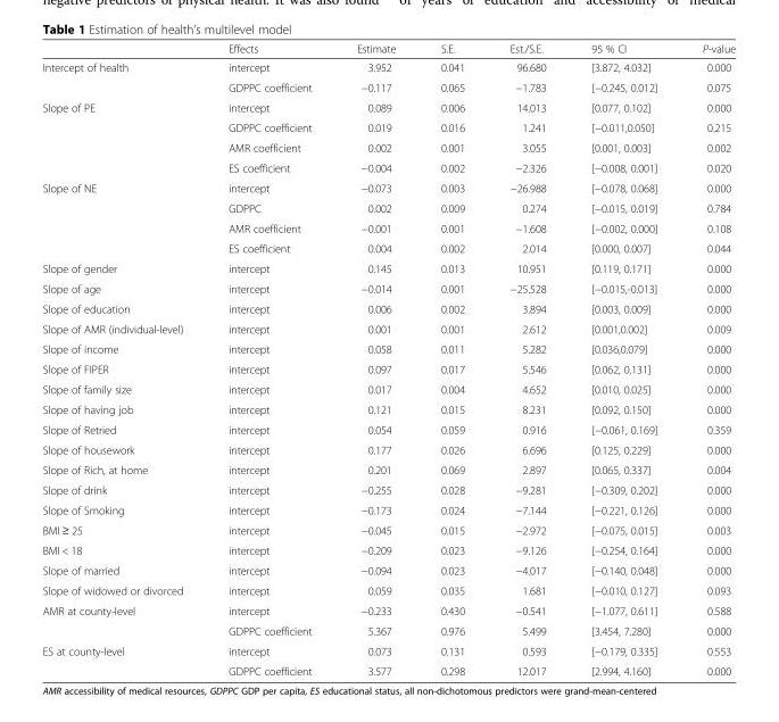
<table><thead><tr><td></td><td>Effects</td><td>Estimate</td><td>S.E.</td><td>Est./S.E.</td><td>95 % CI</td><td>P-value</td></tr></thead><tbody><tr><td rowspan="2">Intercept of health</td><td>intercept</td><td>3.952</td><td>0.041</td><td>96.680</td><td>[3.872, 4.032]</td><td>0.000</td></tr><tr><td>GDPPC coefficient</td><td>−0.117</td><td>0.065</td><td>−1.783</td><td>[−0.245, 0.012]</td><td>0.075</td></tr><tr><td rowspan="4">Slope of PE</td><td>intercept</td><td>0.089</td><td>0.006</td><td>14.013</td><td>[0.077, 0.102]</td><td>0.000</td></tr><tr><td>GDPPC coefficient</td><td>0.019</td><td>0.016</td><td>1.241</td><td>[−0.011,0.050]</td><td>0.215</td></tr><tr><td>AMR coefficient</td><td>0.002</td><td>0.001</td><td>3.055</td><td>[0.001, 0.003]</td><td>0.002</td></tr><tr><td>ES coefficient</td><td>−0.004</td><td>0.002</td><td>−2.326</td><td>[−0.008, 0.001]</td><td>0.020</td></tr><tr><td rowspan="4">Slope of NE</td><td>intercept</td><td>−0.073</td><td>0.003</td><td>−26.988</td><td>[−0.078, 0.068]</td><td>0.000</td></tr><tr><td>GDPPC</td><td>0.002</td><td>0.009</td><td>0.274</td><td>[−0.015, 0.019]</td><td>0.784</td></tr><tr><td>AMR coefficient</td><td>−0.001</td><td>0.001</td><td>−1.608</td><td>[−0.002, 0.000]</td><td>0.108</td></tr><tr><td>ES coefficient</td><td>0.004</td><td>0.002</td><td>2.014</td><td>[0.000, 0.007]</td><td>0.044</td></tr><tr><td>Slope of gender</td><td>intercept</td><td>0.145</td><td>0.013</td><td>10.951</td><td>[0.119, 0.171]</td><td>0.000</td></tr><tr><td>Slope of age</td><td>intercept</td><td>−0.014</td><td>0.001</td><td>−25.528</td><td>[−0.015,-0.013]</td><td>0.000</td></tr><tr><td>Slope of education</td><td>intercept</td><td>0.006</td><td>0.002</td><td>3.894</td><td>[0.003, 0.009]</td><td>0.000</td></tr><tr><td>Slope of AMR (individual-level)</td><td>intercept</td><td>0.001</td><td>0.001</td><td>2.612</td><td>[0.001,0.002]</td><td>0.009</td></tr><tr><td>Slope of income</td><td>intercept</td><td>0.058</td><td>0.011</td><td>5.282</td><td>[0.036,0.079]</td><td>0.000</td></tr><tr><td>Slope of FIPER</td><td>intercept</td><td>0.097</td><td>0.017</td><td>5.546</td><td>[0.062, 0.131]</td><td>0.000</td></tr><tr><td>Slope of family size</td><td>intercept</td><td>0.017</td><td>0.004</td><td>4.652</td><td>[0.010, 0.025]</td><td>0.000</td></tr><tr><td>Slope of having job</td><td>intercept</td><td>0.121</td><td>0.015</td><td>8.231</td><td>[0.092, 0.150]</td><td>0.000</td></tr><tr><td>Slope of Retried</td><td>intercept</td><td>0.054</td><td>0.059</td><td>0.916</td><td>[−0.061, 0.169]</td><td>0.359</td></tr><tr><td>Slope of housework</td><td>intercept</td><td>0.177</td><td>0.026</td><td>6.696</td><td>[0.125, 0.229]</td><td>0.000</td></tr><tr><td>Slope of Rich, at home</td><td>intercept</td><td>0.201</td><td>0.069</td><td>2.897</td><td>[0.065, 0.337]</td><td>0.004</td></tr><tr><td>Slope of drink</td><td>intercept</td><td>−0.255</td><td>0.028</td><td>−9.281</td><td>[−0.309, 0.202]</td><td>0.000</td></tr><tr><td>Slope of Smoking</td><td>intercept</td><td>−0.173</td><td>0.024</td><td>−7.144</td><td>[−0.221, 0.126]</td><td>0.000</td></tr><tr><td>BMI ≥ 25</td><td>intercept</td><td>−0.045</td><td>0.015</td><td>−2.972</td><td>[−0.075, 0.015]</td><td>0.003</td></tr><tr><td>BMI &lt; 18</td><td>intercept</td><td>−0.209</td><td>0.023</td><td>−9.126</td><td>[−0.254, 0.164]</td><td>0.000</td></tr><tr><td>Slope of married</td><td>intercept</td><td>−0.094</td><td>0.023</td><td>−4.017</td><td>[−0.140, 0.048]</td><td>0.000</td></tr><tr><td>Slope of widowed or divorced</td><td>intercept</td><td>0.059</td><td>0.035</td><td>1.681</td><td>[−0.010, 0.127]</td><td>0.093</td></tr><tr><td rowspan="2">AMR at county-level</td><td>intercept</td><td>−0.233</td><td>0.430</td><td>−0.541</td><td>[−1.077, 0.611]</td><td>0.588</td></tr><tr><td>GDPPC coefficient</td><td>5.367</td><td>0.976</td><td>5.499</td><td>[3.454, 7.280]</td><td>0.000</td></tr><tr><td rowspan="2">ES at county-level</td><td>intercept</td><td>0.073</td><td>0.131</td><td>0.593</td><td>[−0.179, 0.335]</td><td>0.553</td></tr><tr><td>GDPPC coefficient</td><td>3.577</td><td>0.298</td><td>12.017</td><td>[2.994, 4.160]</td><td>0.000</td></tr></tbody></table>